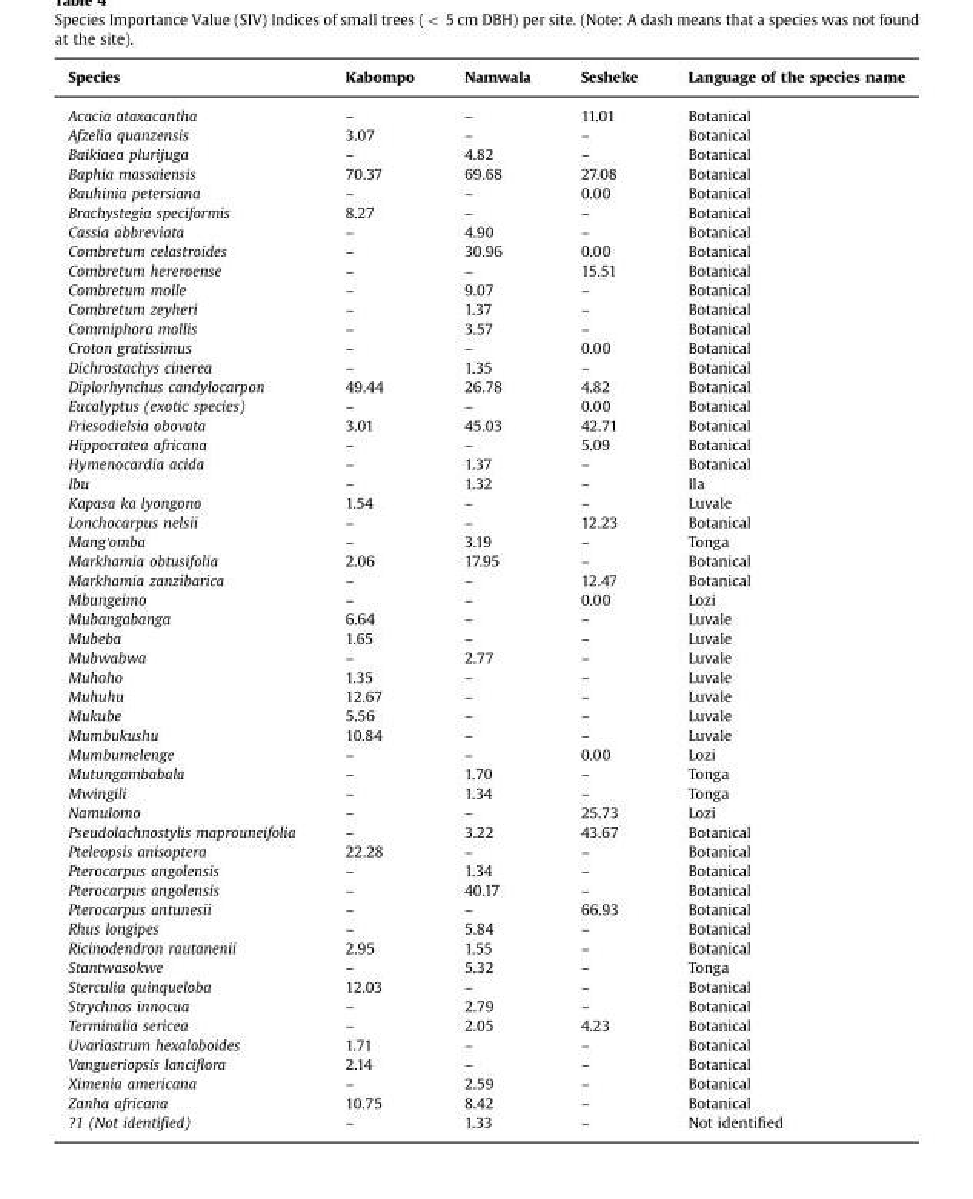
<table><thead><tr><td>Species</td><td>Kabompo</td><td>Namwala</td><td>Sesheke</td><td>Language of the species name</td></tr></thead><tbody><tr><td>Acacia ataxacantha</td><td>–</td><td>–</td><td>11.01</td><td>Botanical</td></tr><tr><td>Afzelia quanzensis</td><td>3.07</td><td>–</td><td>–</td><td>Botanical</td></tr><tr><td>Baikiaea plurijuga</td><td>–</td><td>4.82</td><td>–</td><td>Botanical</td></tr><tr><td>Baphia massaiensis</td><td>70.37</td><td>69.68</td><td>27.08</td><td>Botanical</td></tr><tr><td>Bauhinia petersiana</td><td>–</td><td>–</td><td>0.00</td><td>Botanical</td></tr><tr><td>Brachystegia speciformis</td><td>8.27</td><td>–</td><td>–</td><td>Botanical</td></tr><tr><td>Cassia abbreviata</td><td>–</td><td>4.90</td><td>–</td><td>Botanical</td></tr><tr><td>Combretum celastroides</td><td>–</td><td>30.96</td><td>0.00</td><td>Botanical</td></tr><tr><td>Combretum hereroense</td><td>–</td><td>–</td><td>15.51</td><td>Botanical</td></tr><tr><td>Combretum molle</td><td>–</td><td>9.07</td><td>–</td><td>Botanical</td></tr><tr><td>Combretum zeyheri</td><td>–</td><td>1.37</td><td>–</td><td>Botanical</td></tr><tr><td>Commiphora mollis</td><td>–</td><td>3.57</td><td>–</td><td>Botanical</td></tr><tr><td>Croton gratissimus</td><td>–</td><td>–</td><td>0.00</td><td>Botanical</td></tr><tr><td>Dichrostachys cinerea</td><td>–</td><td>1.35</td><td>–</td><td>Botanical</td></tr><tr><td>Diplorhynchus candylocarpon</td><td>49.44</td><td>26.78</td><td>4.82</td><td>Botanical</td></tr><tr><td>Eucalyptus (exotic species)</td><td>–</td><td>–</td><td>0.00</td><td>Botanical</td></tr><tr><td>Friesodielsia obovata</td><td>3.01</td><td>45.03</td><td>42.71</td><td>Botanical</td></tr><tr><td>Hippocratea africana</td><td>–</td><td>–</td><td>5.09</td><td>Botanical</td></tr><tr><td>Hymenocardia acida</td><td>–</td><td>1.37</td><td>–</td><td>Botanical</td></tr><tr><td>Ibu</td><td>–</td><td>1.32</td><td>–</td><td>Ila</td></tr><tr><td>Kapasa ka lyongono</td><td>1.54</td><td>–</td><td>–</td><td>Luvale</td></tr><tr><td>Lonchocarpus nelsii</td><td>–</td><td>–</td><td>12.23</td><td>Botanical</td></tr><tr><td>Mang&#x27;omba</td><td>–</td><td>3.19</td><td>–</td><td>Tonga</td></tr><tr><td>Markhamia obtusifolia</td><td>2.06</td><td>17.95</td><td>–</td><td>Botanical</td></tr><tr><td>Markhamia zanzibarica</td><td>–</td><td>–</td><td>12.47</td><td>Botanical</td></tr><tr><td>Mbungeimo</td><td>–</td><td>–</td><td>0.00</td><td>Lozi</td></tr><tr><td>Mubangabanga</td><td>6.64</td><td>–</td><td>–</td><td>Luvale</td></tr><tr><td>Mubeba</td><td>1.65</td><td>–</td><td>–</td><td>Luvale</td></tr><tr><td>Mubwabwa</td><td>–</td><td>2.77</td><td>–</td><td>Luvale</td></tr><tr><td>Muhoho</td><td>1.35</td><td>–</td><td>–</td><td>Luvale</td></tr><tr><td>Muhuhu</td><td>12.67</td><td>–</td><td>–</td><td>Luvale</td></tr><tr><td>Mukube</td><td>5.56</td><td>–</td><td>–</td><td>Luvale</td></tr><tr><td>Mumbukushu</td><td>10.84</td><td>–</td><td>–</td><td>Luvale</td></tr><tr><td>Mumbumelenge</td><td>–</td><td>–</td><td>0.00</td><td>Lozi</td></tr><tr><td>Mutungambabala</td><td>–</td><td>1.70</td><td>–</td><td>Tonga</td></tr><tr><td>Mwingili</td><td>–</td><td>1.34</td><td>–</td><td>Tonga</td></tr><tr><td>Namulomo</td><td>–</td><td>–</td><td>25.73</td><td>Lozi</td></tr><tr><td>Pseudolachnostylis maprouneifolia</td><td>–</td><td>3.22</td><td>43.67</td><td>Botanical</td></tr><tr><td>Pteleopsis anisoptera</td><td>22.28</td><td>–</td><td>–</td><td>Botanical</td></tr><tr><td>Pterocarpus angolensis</td><td>–</td><td>1.34</td><td>–</td><td>Botanical</td></tr><tr><td>Pterocarpus angolensis</td><td>–</td><td>40.17</td><td>–</td><td>Botanical</td></tr><tr><td>Pterocarpus antunesii</td><td>–</td><td>–</td><td>66.93</td><td>Botanical</td></tr><tr><td>Rhus longipes</td><td>–</td><td>5.84</td><td>–</td><td>Botanical</td></tr><tr><td>Ricinodendron rautanenii</td><td>2.95</td><td>1.55</td><td>–</td><td>Botanical</td></tr><tr><td>Stantwasokwe</td><td>–</td><td>5.32</td><td>–</td><td>Tonga</td></tr><tr><td>Sterculia quinqueloba</td><td>12.03</td><td>–</td><td>–</td><td>Botanical</td></tr><tr><td>Strychnos innocua</td><td>–</td><td>2.79</td><td>–</td><td>Botanical</td></tr><tr><td>Terminalia sericea</td><td>–</td><td>2.05</td><td>4.23</td><td>Botanical</td></tr><tr><td>Uvariastrum hexaloboides</td><td>1.71</td><td>–</td><td>–</td><td>Botanical</td></tr><tr><td>Vangueriopsis lanciflora</td><td>2.14</td><td>–</td><td>–</td><td>Botanical</td></tr><tr><td>Ximenia americana</td><td>–</td><td>2.59</td><td>–</td><td>Botanical</td></tr><tr><td>Zanha africana</td><td>10.75</td><td>8.42</td><td>–</td><td>Botanical</td></tr><tr><td>?1 (Not identified)</td><td>–</td><td>1.33</td><td>–</td><td>Not identified</td></tr></tbody></table>